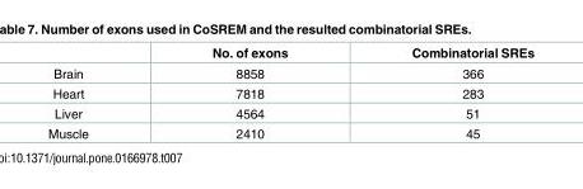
<table><thead><tr><td></td><td>No. of exons</td><td>Combinatorial SREs</td></tr></thead><tbody><tr><td>Brain</td><td>8858</td><td>366</td></tr><tr><td>Heart</td><td>7818</td><td>283</td></tr><tr><td>Liver</td><td>4564</td><td>51</td></tr><tr><td>Muscle</td><td>2410</td><td>45</td></tr></tbody></table>